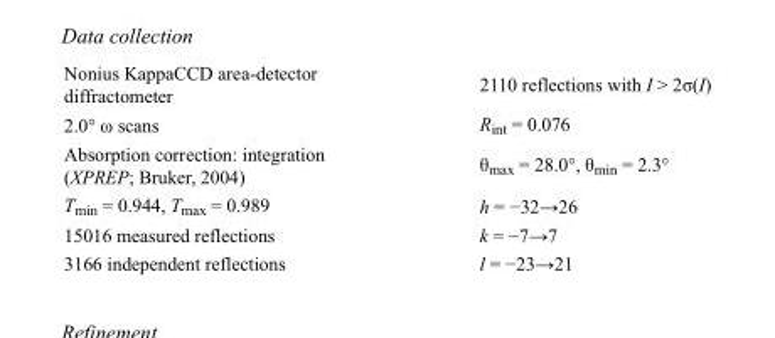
<table><tbody><tr><td>Nonius KappaCCD area-detector diffractometer</td><td>2110 reflections with I &gt; 2σ(I)</td></tr><tr><td>2.0° ω scans</td><td>R<sub>int</sub> = 0.076</td></tr><tr><td>Absorption correction: integration (XPREP; Bruker, 2004)</td><td>θ<sub>max</sub> = 28.0°, θ<sub>min</sub> = 2.3°</td></tr><tr><td>T<sub>min</sub> = 0.944, T<sub>max</sub> = 0.989</td><td>h = −32→26</td></tr><tr><td>15016 measured reflections</td><td>k = −7→7</td></tr><tr><td>3166 independent reflections</td><td>l = −23→21</td></tr></tbody></table>